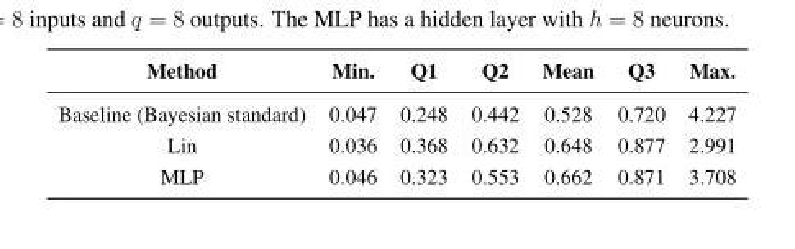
<table><thead><tr><td>Method</td><td>Min.</td><td>Q1</td><td>Q2</td><td>Mean</td><td>Q3</td><td>Max.</td></tr></thead><tbody><tr><td>Baseline (Bayesian standard)</td><td>0.047</td><td>0.248</td><td>0.442</td><td>0.528</td><td>0.720</td><td>4.227</td></tr><tr><td>Lin</td><td>0.036</td><td>0.368</td><td>0.632</td><td>0.648</td><td>0.877</td><td>2.991</td></tr><tr><td>MLP</td><td>0.046</td><td>0.323</td><td>0.553</td><td>0.662</td><td>0.871</td><td>3.708</td></tr></tbody></table>